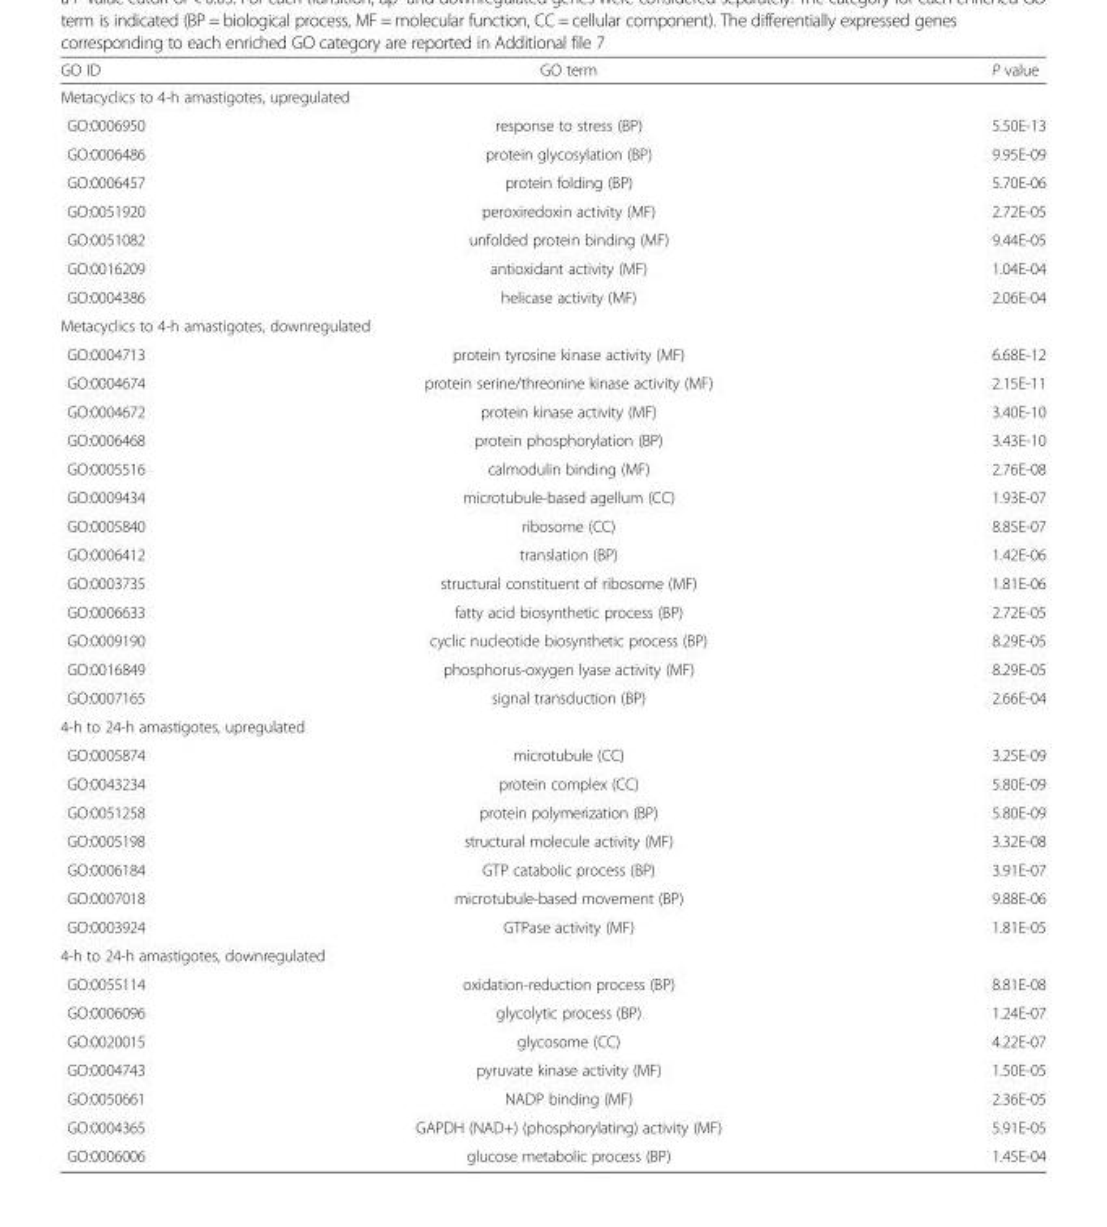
<table><thead><tr><td>GO ID</td><td>GO term</td><td>P value</td></tr></thead><tbody><tr><td colspan="3">Metacyclics to 4-h amastigotes, upregulated</td></tr><tr><td>GO:0006950</td><td>response to stress (BP)</td><td>5.50E-13</td></tr><tr><td>GO:0006486</td><td>protein glycosylation (BP)</td><td>9.95E-09</td></tr><tr><td>GO:0006457</td><td>protein folding (BP)</td><td>5.70E-06</td></tr><tr><td>GO:0051920</td><td>peroxiredoxin activity (MF)</td><td>2.72E-05</td></tr><tr><td>GO:0051082</td><td>unfolded protein binding (MF)</td><td>9.44E-05</td></tr><tr><td>GO:0016209</td><td>antioxidant activity (MF)</td><td>1.04E-04</td></tr><tr><td>GO:0004386</td><td>helicase activity (MF)</td><td>2.06E-04</td></tr><tr><td colspan="3">Metacyclics to 4-h amastigotes, downregulated</td></tr><tr><td>GO:0004713</td><td>protein tyrosine kinase activity (MF)</td><td>6.68E-12</td></tr><tr><td>GO:0004674</td><td>protein serine/threonine kinase activity (MF)</td><td>2.15E-11</td></tr><tr><td>GO:0004672</td><td>protein kinase activity (MF)</td><td>3.40E-10</td></tr><tr><td>GO:0006468</td><td>protein phosphorylation (BP)</td><td>3.43E-10</td></tr><tr><td>GO:0005516</td><td>calmodulin binding (MF)</td><td>2.76E-08</td></tr><tr><td>GO:0009434</td><td>microtubule-based agellum (CC)</td><td>1.93E-07</td></tr><tr><td>GO:0005840</td><td>ribosome (CC)</td><td>8.85E-07</td></tr><tr><td>GO:0006412</td><td>translation (BP)</td><td>1.42E-06</td></tr><tr><td>GO:0003735</td><td>structural constituent of ribosome (MF)</td><td>1.81E-06</td></tr><tr><td>GO:0006633</td><td>fatty acid biosynthetic process (BP)</td><td>2.72E-05</td></tr><tr><td>GO:0009190</td><td>cyclic nucleotide biosynthetic process (BP)</td><td>8.29E-05</td></tr><tr><td>GO:0016849</td><td>phosphorus-oxygen lyase activity (MF)</td><td>8.29E-05</td></tr><tr><td>GO:0007165</td><td>signal transduction (BP)</td><td>2.66E-04</td></tr><tr><td colspan="3">4-h to 24-h amastigotes, upregulated</td></tr><tr><td>GO:0005874</td><td>microtubule (CC)</td><td>3.25E-09</td></tr><tr><td>GO:0043234</td><td>protein complex (CC)</td><td>5.80E-09</td></tr><tr><td>GO:0051258</td><td>protein polymerization (BP)</td><td>5.80E-09</td></tr><tr><td>GO:0005198</td><td>structural molecule activity (MF)</td><td>3.32E-08</td></tr><tr><td>GO:0006184</td><td>GTP catabolic process (BP)</td><td>3.91E-07</td></tr><tr><td>GO:0007018</td><td>microtubule-based movement (BP)</td><td>9.88E-06</td></tr><tr><td>GO:0003924</td><td>GTPase activity (MF)</td><td>1.81E-05</td></tr><tr><td colspan="3">4-h to 24-h amastigotes, downregulated</td></tr><tr><td>GO:0055114</td><td>oxidation-reduction process (BP)</td><td>8.81E-08</td></tr><tr><td>GO:0006096</td><td>glycolytic process (BP)</td><td>1.24E-07</td></tr><tr><td>GO:0020015</td><td>glycosome (CC)</td><td>4.22E-07</td></tr><tr><td>GO:0004743</td><td>pyruvate kinase activity (MF)</td><td>1.50E-05</td></tr><tr><td>GO:0050661</td><td>NADP binding (MF)</td><td>2.36E-05</td></tr><tr><td>GO:0004365</td><td>GAPDH (NAD+) (phosphorylating) activity (MF)</td><td>5.91E-05</td></tr><tr><td>GO:0006006</td><td>glucose metabolic process (BP)</td><td>1.45E-04</td></tr></tbody></table>